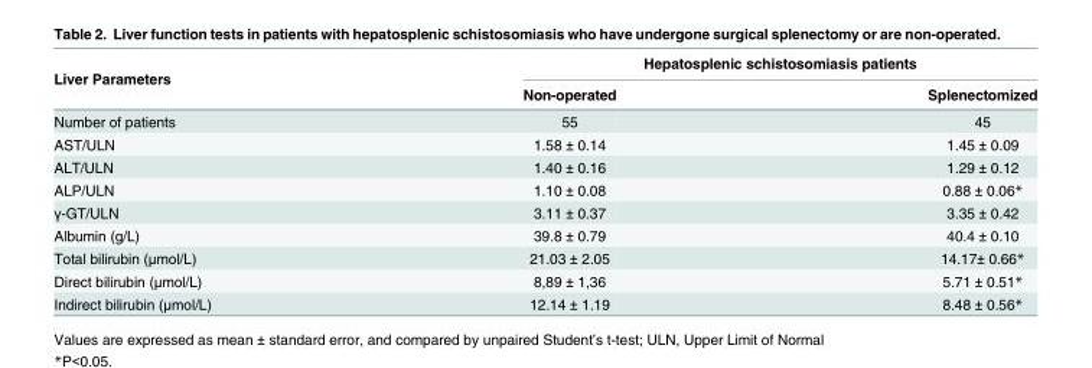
<table><thead><tr><td rowspan="2">Liver Parameters</td><td colspan="2">Hepatosplenic schistosomiasis patients</td></tr><tr><td>Non-operated</td><td>Splenectomized</td></tr></thead><tbody><tr><td>Number of patients</td><td>55</td><td>45</td></tr><tr><td>AST/ULN</td><td>1.58 ± 0.14</td><td>1.45 ± 0.09</td></tr><tr><td>ALT/ULN</td><td>1.40 ± 0.16</td><td>1.29 ± 0.12</td></tr><tr><td>ALP/ULN</td><td>1.10 ± 0.08</td><td>0.88 ± 0.06*</td></tr><tr><td>γ-GT/ULN</td><td>3.11 ± 0.37</td><td>3.35 ± 0.42</td></tr><tr><td>Albumin (g/L)</td><td>39.8 ± 0.79</td><td>40.4 ± 0.10</td></tr><tr><td>Total bilirubin (μmol/L)</td><td>21.03 ± 2.05</td><td>14.17± 0.66*</td></tr><tr><td>Direct bilirubin (μmol/L)</td><td>8,89 ± 1,36</td><td>5.71 ± 0.51*</td></tr><tr><td>Indirect bilirubin (μmol/L)</td><td>12.14 ± 1.19</td><td>8.48 ± 0.56*</td></tr></tbody></table>